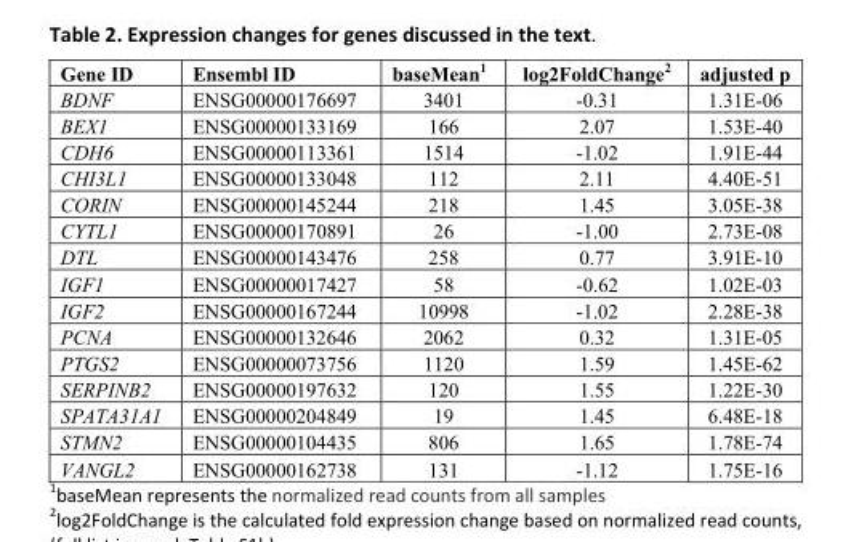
<table><tbody><tr><td>Gene ID</td><td>Ensembl ID</td><td>baseMean<sup>1</sup></td><td>log2FoldChange<sup>2</sup></td><td>adjusted p</td></tr><tr><td>BDNF</td><td>ENSG00000176697</td><td>3401</td><td>-0.31</td><td>1.31E-06</td></tr><tr><td>BEX1</td><td>ENSG00000133169</td><td>166</td><td>2.07</td><td>1.53E-40</td></tr><tr><td>CDH6</td><td>ENSG00000113361</td><td>1514</td><td>-1.02</td><td>1.91E-44</td></tr><tr><td>CHI3L1</td><td>ENSG00000133048</td><td>112</td><td>2.11</td><td>4.40E-51</td></tr><tr><td>CORIN</td><td>ENSG00000145244</td><td>218</td><td>1.45</td><td>3.05E-38</td></tr><tr><td>CYTL1</td><td>ENSG00000170891</td><td>26</td><td>-1.00</td><td>2.73E-08</td></tr><tr><td>DTL</td><td>ENSG00000143476</td><td>258</td><td>0.77</td><td>3.91E-10</td></tr><tr><td>IGF1</td><td>ENSG00000017427</td><td>58</td><td>-0.62</td><td>1.02E-03</td></tr><tr><td>IGF2</td><td>ENSG00000167244</td><td>10998</td><td>-1.02</td><td>2.28E-38</td></tr><tr><td>PCNA</td><td>ENSG00000132646</td><td>2062</td><td>0.32</td><td>1.31E-05</td></tr><tr><td>PTGS2</td><td>ENSG00000073756</td><td>1120</td><td>1.59</td><td>1.45E-62</td></tr><tr><td>SERPINB2</td><td>ENSG00000197632</td><td>120</td><td>1.55</td><td>1.22E-30</td></tr><tr><td>SPATA31A1</td><td>ENSG00000204849</td><td>19</td><td>1.45</td><td>6.48E-18</td></tr><tr><td>STMN2</td><td>ENSG00000104435</td><td>806</td><td>1.65</td><td>1.78E-74</td></tr><tr><td>VANGL2</td><td>ENSG00000162738</td><td>131</td><td>-1.12</td><td>1.75E-16</td></tr></tbody></table>